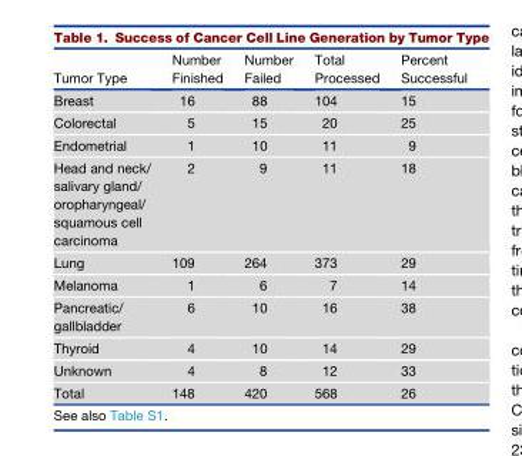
<table><thead><tr><td>Tumor Type</td><td>Number Finished</td><td>Number Failed</td><td>Total Processed</td><td>Percent Successful</td></tr></thead><tbody><tr><td>Breast</td><td>16</td><td>88</td><td>104</td><td>15</td></tr><tr><td>Colorectal</td><td>5</td><td>15</td><td>20</td><td>25</td></tr><tr><td>Endometrial</td><td>1</td><td>10</td><td>11</td><td>9</td></tr><tr><td>Head and neck/ salivary gland/ oropharyngeal/ squamous cell carcinoma</td><td>2</td><td>9</td><td>11</td><td>18</td></tr><tr><td>Lung</td><td>109</td><td>264</td><td>373</td><td>29</td></tr><tr><td>Melanoma</td><td>1</td><td>6</td><td>7</td><td>14</td></tr><tr><td>Pancreatic/ gallbladder</td><td>6</td><td>10</td><td>16</td><td>38</td></tr><tr><td>Thyroid</td><td>4</td><td>10</td><td>14</td><td>29</td></tr><tr><td>Unknown</td><td>4</td><td>8</td><td>12</td><td>33</td></tr><tr><td>Total</td><td>148</td><td>420</td><td>568</td><td>26</td></tr></tbody></table>